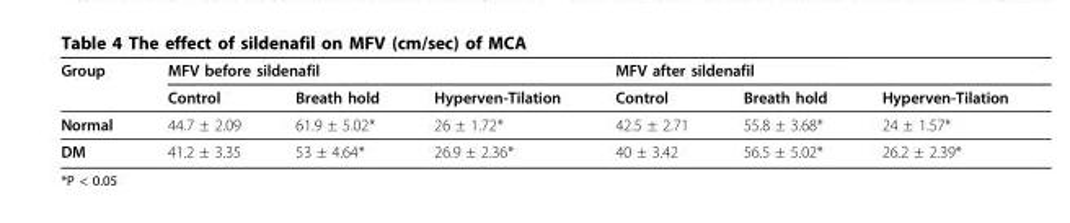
<table><thead><tr><td rowspan="2">Group</td><td colspan="3">MFV before sildenafil</td><td colspan="3">MFV after sildenafil</td></tr><tr><td>Control</td><td>Breath hold</td><td>Hyperven-Tilation</td><td>Control</td><td>Breath hold</td><td>Hyperven-Tilation</td></tr></thead><tbody><tr><td>Normal</td><td>44.7 ± 2.09</td><td>61.9 ± 5.02*</td><td>26 ± 1.72*</td><td>42.5 ± 2.71</td><td>55.8 ± 3.68*</td><td>24 ± 1.57*</td></tr><tr><td>DM</td><td>41.2 ± 3.35</td><td>53 ± 4.64*</td><td>26.9 ± 2.36*</td><td>40 ± 3.42</td><td>56.5 ± 5.02*</td><td>26.2 ± 2.39*</td></tr></tbody></table>